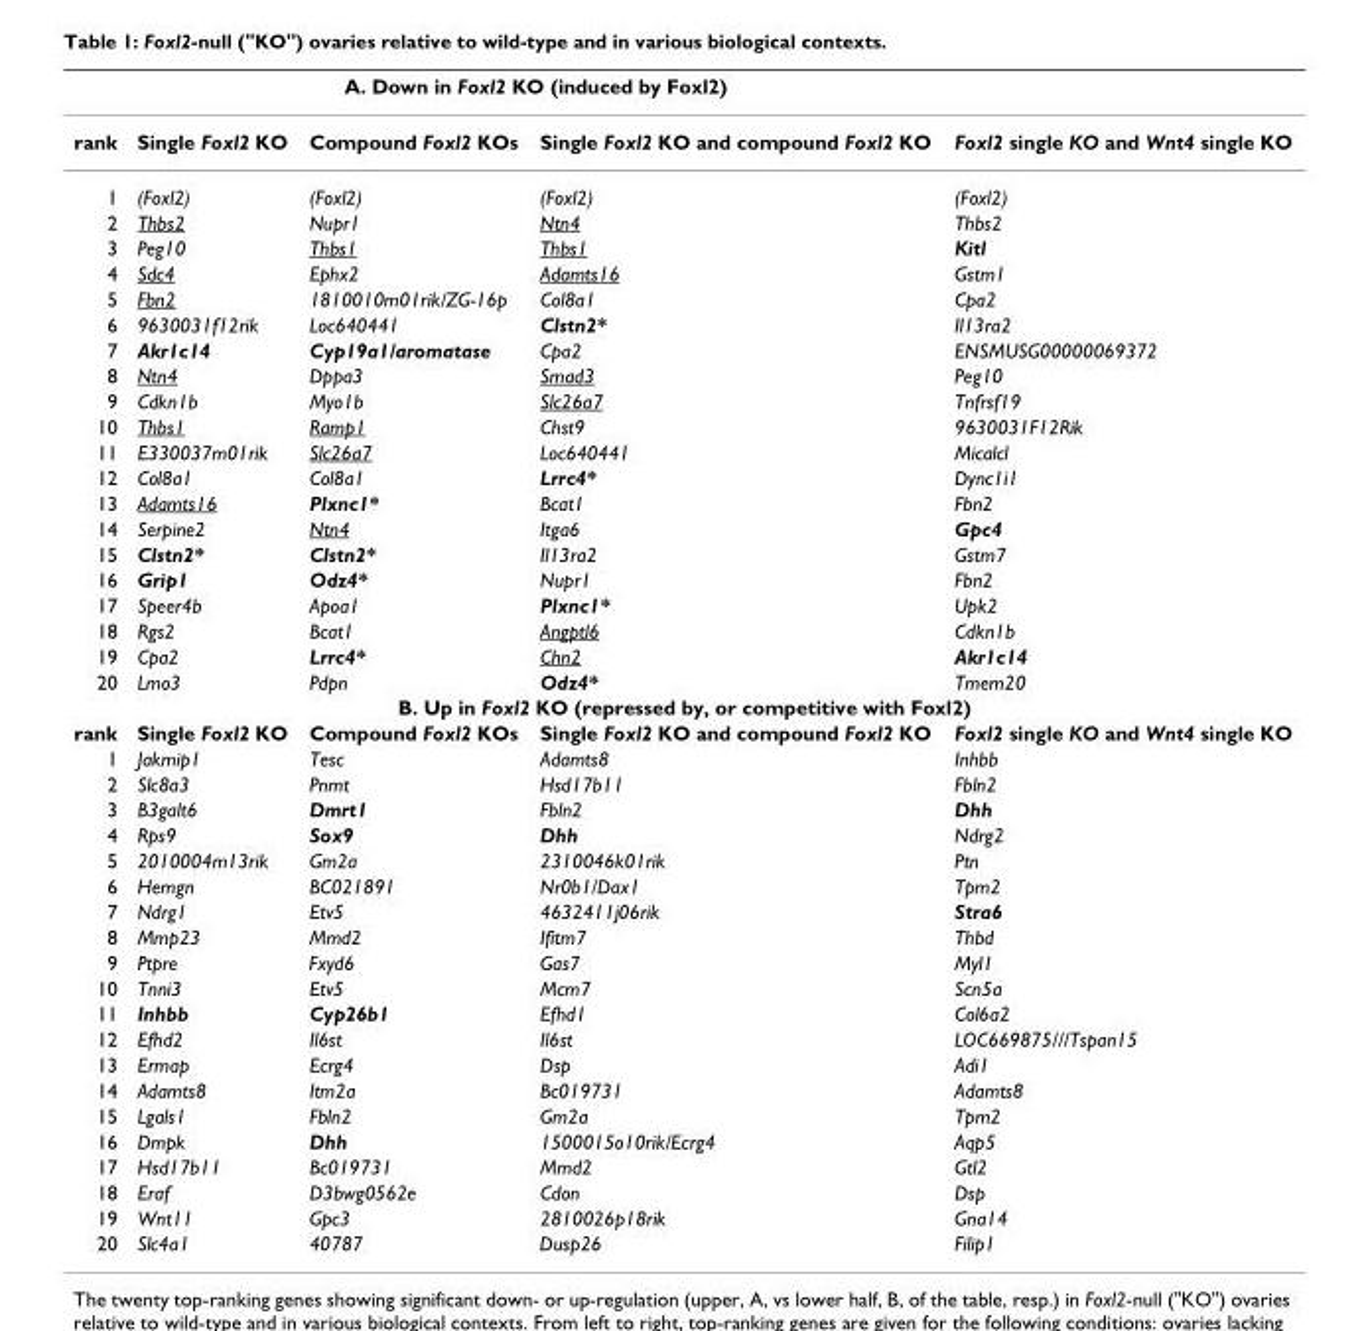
<table><thead><tr><td rowspan="2">rank</td><td colspan="3">A. Down in Foxl2 KO (induced by Foxl2)</td><td rowspan="2">Foxl2 single KO and Wnt4 single KO</td></tr><tr><td>Single Foxl2 KO</td><td>Compound Foxl2 KOs</td><td>Single Foxl2 KO and compound Foxl2 KO</td></tr></thead><tbody><tr><td>1</td><td>(Foxl2)</td><td>(Foxl2)</td><td>(Foxl2)</td><td>(Foxl2)</td></tr><tr><td>2</td><td>Thbs2</td><td>Nupr1</td><td>Ntn4</td><td>Thbs2</td></tr><tr><td>3</td><td>Peg10</td><td>Thbs1</td><td>Thbs1</td><td>Kitl</td></tr><tr><td>4</td><td>Sdc4</td><td>Ephx2</td><td>Adamts16</td><td>Gstm1</td></tr><tr><td>5</td><td>Fbn2</td><td>1810010m01rik/ZG-16p</td><td>Col8a1</td><td>Cpa2</td></tr><tr><td>6</td><td>9630031f12rik</td><td>Loc640441</td><td>Clstn2*</td><td>Il13ra2</td></tr><tr><td>7</td><td>Akr1c14</td><td>Cyp19a1/aromatase</td><td>Cpa2</td><td>ENSMUSG00000069372</td></tr><tr><td>8</td><td>Ntn4</td><td>Dppa3</td><td>Smad3</td><td>Peg10</td></tr><tr><td>9</td><td>Cdkn1b</td><td>Myo1b</td><td>Slc26a7</td><td>Tnfrsf19</td></tr><tr><td>10</td><td>Thbs1</td><td>Ramp1</td><td>Chst9</td><td>9630031F12Rik</td></tr><tr><td>11</td><td>E330037m01rik</td><td>Slc26a7</td><td>Loc640441</td><td>Micalcl</td></tr><tr><td>12</td><td>Col8a1</td><td>Col8a1</td><td>Lrrc4*</td><td>Dync1i1</td></tr><tr><td>13</td><td>Adamts16</td><td>Plxnc1*</td><td>Bcat1</td><td>Fbn2</td></tr><tr><td>14</td><td>Serpine2</td><td>Ntn4</td><td>Itga6</td><td>Gpc4</td></tr><tr><td>15</td><td>Clstn2*</td><td>Clstn2*</td><td>Il13ra2</td><td>Gstm7</td></tr><tr><td>16</td><td>Grip1</td><td>Odz4*</td><td>Nupr1</td><td>Fbn2</td></tr><tr><td>17</td><td>Speer4b</td><td>Apoa1</td><td>Plxnc1*</td><td>Upk2</td></tr><tr><td>18</td><td>Rgs2</td><td>Bcat1</td><td>Angptl6</td><td>Cdkn1b</td></tr><tr><td>19</td><td>Cpa2</td><td>Lrrc4*</td><td>Chn2</td><td>Akr1c14</td></tr><tr><td>20</td><td>Lmo3</td><td>Pdpn</td><td>Odz4*</td><td>Tmem20</td></tr><tr><td colspan="5">B. Up in Foxl2 KO (repressed by, or competitive with Foxl2)</td></tr><tr><td>rank</td><td>Single Foxl2 KO</td><td>Compound Foxl2 KOs</td><td>Single Foxl2 KO and compound Foxl2 KO</td><td>Foxl2 single KO and Wnt4 single KO</td></tr><tr><td>1</td><td>Jakmip1</td><td>Tesc</td><td>Adamts8</td><td>Inhbb</td></tr><tr><td>2</td><td>Slc8a3</td><td>Pnmt</td><td>Hsd17b11</td><td>Fbln2</td></tr><tr><td>3</td><td>B3galt6</td><td>Dmrt1</td><td>Fbln2</td><td>Dhh</td></tr><tr><td>4</td><td>Rps9</td><td>Sox9</td><td>Dhh</td><td>Ndrg2</td></tr><tr><td>5</td><td>2010004m13rik</td><td>Gm2a</td><td>2310046k01rik</td><td>Ptn</td></tr><tr><td>6</td><td>Hemgn</td><td>BC021891</td><td>Nr0b1/Dax1</td><td>Tpm2</td></tr><tr><td>7</td><td>Ndrg1</td><td>Etv5</td><td>4632411j06rik</td><td>Stra6</td></tr><tr><td>8</td><td>Mmp23</td><td>Mmd2</td><td>Ifitm7</td><td>Thbd</td></tr><tr><td>9</td><td>Ptpre</td><td>Fxyd6</td><td>Gas7</td><td>Myl1</td></tr><tr><td>10</td><td>Tnni3</td><td>Etv5</td><td>Mcm7</td><td>Scn5a</td></tr><tr><td>11</td><td>Inhbb</td><td>Cyp26b1</td><td>Efhd1</td><td>Col6a2</td></tr><tr><td>12</td><td>Efhd2</td><td>Il6st</td><td>Il6st</td><td>LOC669875///Tspan15</td></tr><tr><td>13</td><td>Ermap</td><td>Ecrg4</td><td>Dsp</td><td>Adi1</td></tr><tr><td>14</td><td>Adamts8</td><td>Itm2a</td><td>Bc019731</td><td>Adamts8</td></tr><tr><td>15</td><td>Lgals1</td><td>Fbln2</td><td>Gm2a</td><td>Tpm2</td></tr><tr><td>16</td><td>Dmpk</td><td>Dhh</td><td>1500015o10rik/Ecrg4</td><td>Aqp5</td></tr><tr><td>17</td><td>Hsd17b11</td><td>Bc019731</td><td>Mmd2</td><td>Gtl2</td></tr><tr><td>18</td><td>Eraf</td><td>D3bwg0562e</td><td>Cdon</td><td>Dsp</td></tr><tr><td>19</td><td>Wnt11</td><td>Gpc3</td><td>2810026p18rik</td><td>Gna14</td></tr><tr><td>20</td><td>Slc4a1</td><td>40787</td><td>Dusp26</td><td>Filip1</td></tr></tbody></table>